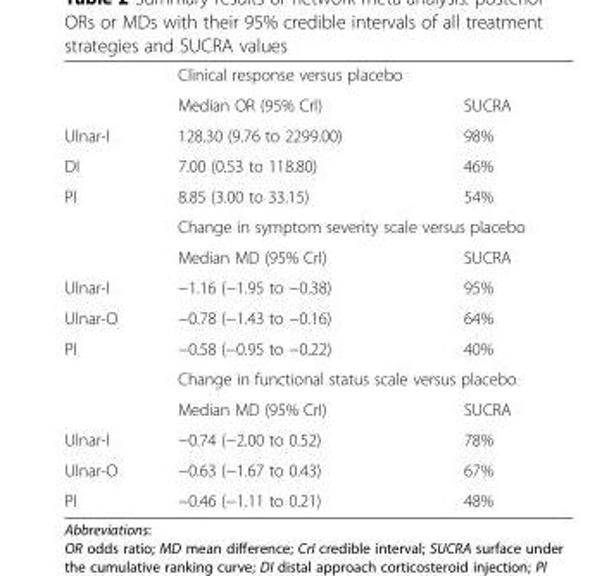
<table><thead><tr><td rowspan="2"></td><td colspan="2">Clinical response versus placebo</td></tr><tr><td>Median OR (95% CrI)</td><td>SUCRA</td></tr></thead><tbody><tr><td>Ulnar-I</td><td>128.30 (9.76 to 2299.00)</td><td>98%</td></tr><tr><td>DI</td><td>7.00 (0.53 to 118.80)</td><td>46%</td></tr><tr><td rowspan="3">PI</td><td>8.85 (3.00 to 33.15)</td><td>54%</td></tr><tr><td colspan="2">Change in symptom severity scale versus placebo</td></tr><tr><td>Median MD (95% CrI)</td><td>SUCRA</td></tr><tr><td>Ulnar-I</td><td>−1.16 (−1.95 to −0.38)</td><td>95%</td></tr><tr><td>Ulnar-O</td><td>−0.78 (−1.43 to −0.16)</td><td>64%</td></tr><tr><td rowspan="3">PI</td><td>−0.58 (−0.95 to −0.22)</td><td>40%</td></tr><tr><td colspan="2">Change in functional status scale versus placebo</td></tr><tr><td>Median MD (95% CrI)</td><td>SUCRA</td></tr><tr><td>Ulnar-I</td><td>−0.74 (−2.00 to 0.52)</td><td>78%</td></tr><tr><td>Ulnar-O</td><td>−0.63 (−1.67 to 0.43)</td><td>67%</td></tr><tr><td>PI</td><td>−0.46 (−1.11 to 0.21)</td><td>48%</td></tr></tbody></table>